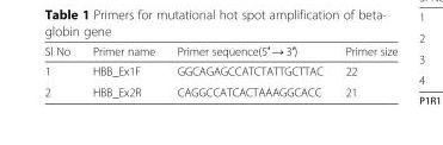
<table><thead><tr><td>Sl No</td><td>Primer name</td><td>Primer sequence(5′ → 3′)</td><td>Primer size</td></tr></thead><tbody><tr><td>1</td><td>HBB_Ex1F</td><td>GGCAGAGCCATCTATTGCTTAC</td><td>22</td></tr><tr><td>2</td><td>HBB_Ex2R</td><td>CAGGCCATCACTAAAGGCACC</td><td>21</td></tr></tbody></table>